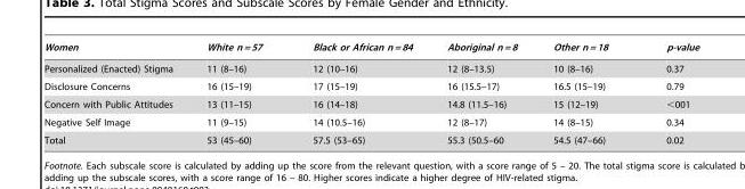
<table><thead><tr><td>Women</td><td>White n = 57</td><td>Black or African n = 84</td><td>Aboriginal n = 8</td><td>Other n = 18</td><td>p-value</td></tr></thead><tbody><tr><td>Personalized (Enacted) Stigma</td><td>11 (8–16)</td><td>12 (10–16)</td><td>12 (8–13.5)</td><td>10 (8–16)</td><td>0.37</td></tr><tr><td>Disclosure Concerns</td><td>16 (15–19)</td><td>17 (15–19)</td><td>16 (15.5–17)</td><td>16.5 (15–19)</td><td>0.79</td></tr><tr><td>Concern with Public Attitudes</td><td>13 (11–15)</td><td>16 (14–18)</td><td>14.8 (11.5–16)</td><td>15 (12–19)</td><td>&lt;001</td></tr><tr><td>Negative Self Image</td><td>11 (9–15)</td><td>14 (10.5–16)</td><td>12 (8–17)</td><td>14 (8–15)</td><td>0.34</td></tr><tr><td>Total</td><td>53 (45–60)</td><td>57.5 (53–65)</td><td>55.3 (50.5–60</td><td>54.5 (47–66)</td><td>0.02</td></tr></tbody></table>